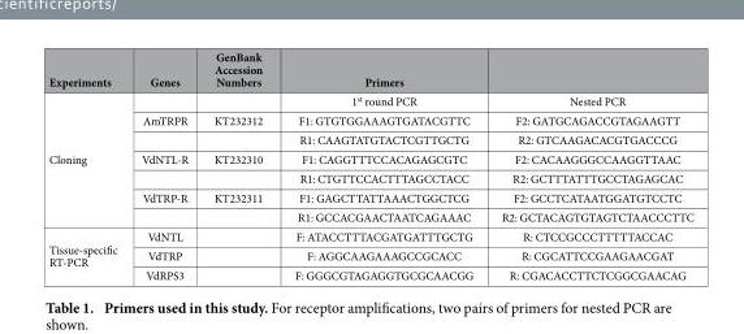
<table><thead><tr><td>Experiments</td><td>Genes</td><td>GenBank Accession Numbers</td><td>Primers</td><td></td></tr></thead><tbody><tr><td rowspan="7">Cloning</td><td></td><td></td><td>1<sup>st</sup> round PCR</td><td>Nested PCR</td></tr><tr><td>AmTRPR</td><td>KT232312</td><td>F1: GTGTGGAAAGTGATACGTTC</td><td>F2: GATGCAGACCGTAGAAGTT</td></tr><tr><td></td><td></td><td>R1: CAAGTATGTACTCGTTGCTG</td><td>R2: GTCAAGACACGTGACCCG</td></tr><tr><td>VdNTL-R</td><td>KT232310</td><td>F1: CAGGTTTCCACAGAGCGTC</td><td>F2: CACAAGGGCCAAGGTTAAC</td></tr><tr><td></td><td></td><td>R1: CTGTTCCACTTTAGCCTACC</td><td>R2: GCTTTATTTGCCTAGAGCAC</td></tr><tr><td>VdTRP-R</td><td>KT232311</td><td>F1: GAGCTTATTAAACTGGCTCG</td><td>F2: GCCTCATAATGGATGTCCTC</td></tr><tr><td></td><td></td><td>R1: GCCACGAACTAATCAGAAAC</td><td>R2: GCTACAGTGTAGTCTAACCCTTC</td></tr><tr><td rowspan="3">Tissue-specific RT-PCR</td><td>VdNTL</td><td></td><td>F: ATACCTTTACGATGATTTGCTG</td><td>R: CTCCGCCCTTTTTACCAC</td></tr><tr><td>VdTRP</td><td></td><td>F: AGGCAAGAAAGCCGCACC</td><td>R: CGCATTCCGAAGAACGAT</td></tr><tr><td>VdRPS3</td><td></td><td>F: GGGCGTAGAGGTGCGCAACGG</td><td>R: CGACACCTTCTCGGCGAACAG</td></tr></tbody></table>